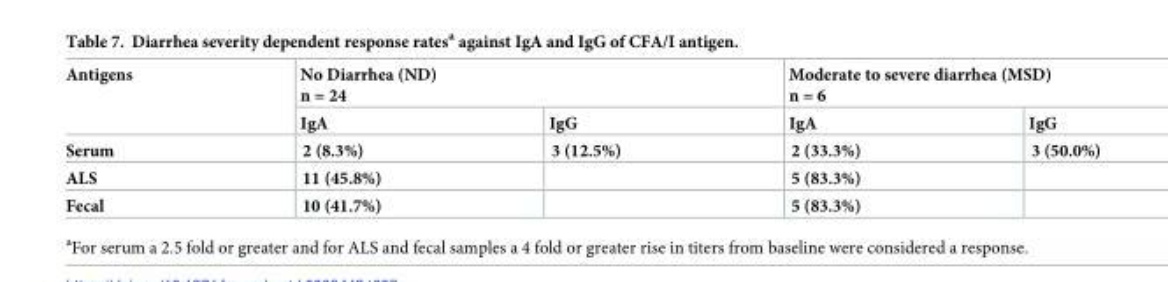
<table><thead><tr><td rowspan="2">Antigens</td><td colspan="2">No Diarrhea (ND) n = 24</td><td colspan="2">Moderate to severe diarrhea (MSD) n = 6</td></tr><tr><td>IgA</td><td>IgG</td><td>IgA</td><td>IgG</td></tr></thead><tbody><tr><td>Serum</td><td>2 (8.3%)</td><td>3 (12.5%)</td><td>2 (33.3%)</td><td>3 (50.0%)</td></tr><tr><td>ALS</td><td>11 (45.8%)</td><td></td><td>5 (83.3%)</td><td></td></tr><tr><td>Fecal</td><td>10 (41.7%)</td><td></td><td>5 (83.3%)</td><td></td></tr></tbody></table>